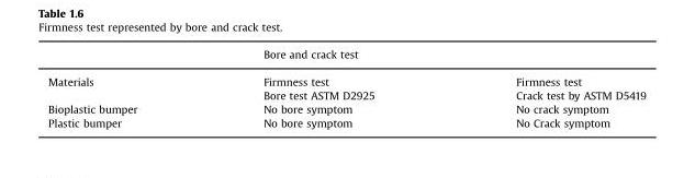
<table><thead><tr><td rowspan="2">Materials</td><td colspan="2">Bore and crack test</td></tr><tr><td>Firmness test</td><td>Firmness test</td></tr></thead><tbody><tr><td></td><td>Bore test ASTM D2925</td><td>Crack test by ASTM D5419</td></tr><tr><td>Bioplastic bumper</td><td>No bore symptom</td><td>No crack symptom</td></tr><tr><td>Plastic bumper</td><td>No bore symptom</td><td>No Crack symptom</td></tr></tbody></table>